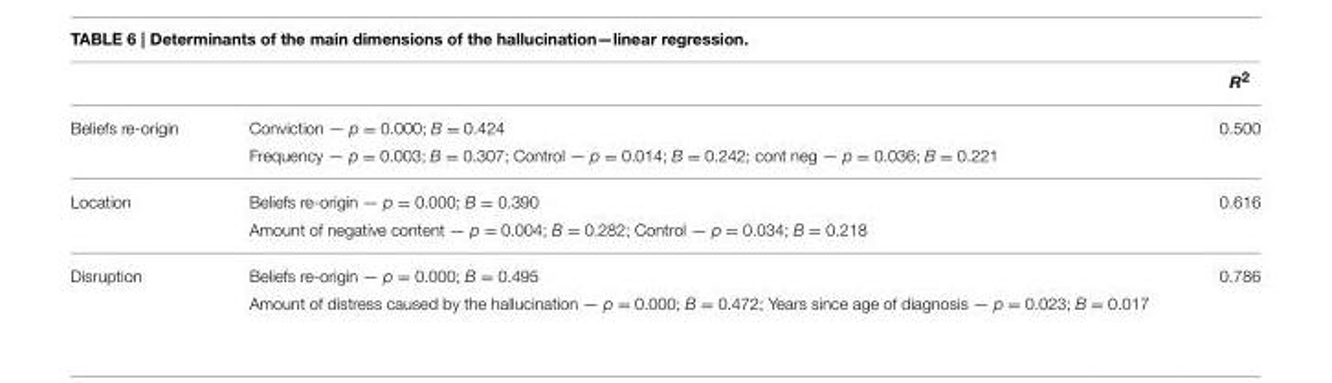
<table><thead><tr><td></td><td></td><td>R<sup>2</sup></td></tr></thead><tbody><tr><td rowspan="2">Beliefs re-origin</td><td>Conviction — p = 0.000; B = 0.424</td><td>0.500</td></tr><tr><td>Frequency — p = 0.003; B = 0.307; Control — p = 0.014; B = 0.242; cont neg — p = 0.036; B = 0.221</td><td></td></tr><tr><td rowspan="2">Location</td><td>Beliefs re-origin — p = 0.000; B = 0.390</td><td>0.616</td></tr><tr><td>Amount of negative content — p = 0.004; B = 0.282; Control — p = 0.034; B = 0.218</td><td></td></tr><tr><td rowspan="2">Disruption</td><td>Beliefs re-origin — p = 0.000; B = 0.495</td><td>0.786</td></tr><tr><td>Amount of distress caused by the hallucination — p = 0.000; B = 0.472; Years since age of diagnosis — p = 0.023; B = 0.017</td><td></td></tr></tbody></table>